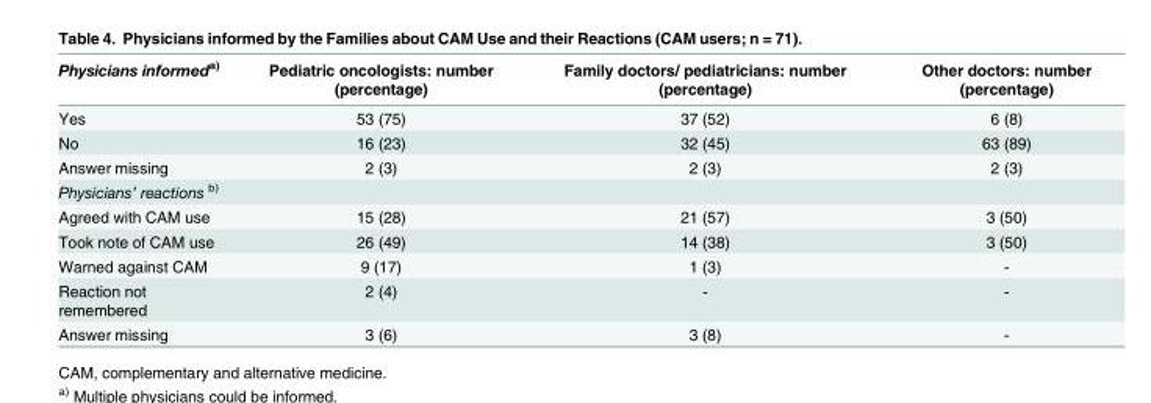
<table><thead><tr><td>Physicians informed<sup>a)</sup></td><td>Pediatric oncologists: number (percentage)</td><td>Family doctors/ pediatricians: number (percentage)</td><td>Other doctors: number (percentage)</td></tr></thead><tbody><tr><td>Yes</td><td>53 (75)</td><td>37 (52)</td><td>6 (8)</td></tr><tr><td>No</td><td>16 (23)</td><td>32 (45)</td><td>63 (89)</td></tr><tr><td>Answer missing</td><td>2 (3)</td><td>2 (3)</td><td>2 (3)</td></tr><tr><td colspan="4">Physicians’ reactions <sup>b)</sup></td></tr><tr><td>Agreed with CAM use</td><td>15 (28)</td><td>21 (57)</td><td>3 (50)</td></tr><tr><td>Took note of CAM use</td><td>26 (49)</td><td>14 (38)</td><td>3 (50)</td></tr><tr><td>Warned against CAM</td><td>9 (17)</td><td>1 (3)</td><td>-</td></tr><tr><td>Reaction not remembered</td><td>2 (4)</td><td>-</td><td>-</td></tr><tr><td>Answer missing</td><td>3 (6)</td><td>3 (8)</td><td>-</td></tr></tbody></table>